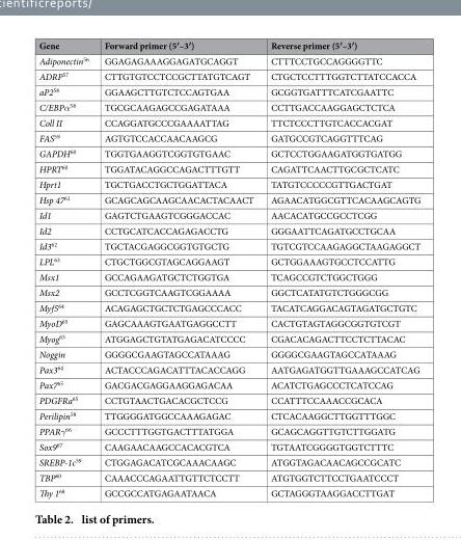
<table><thead><tr><td>Gene</td><td>Forward primer (5′–3′)</td><td>Reverse primer (5′–3′)</td></tr></thead><tbody><tr><td>Adiponectin<sup>56</sup></td><td>GGAGAGAAAGGAGATGCAGGT</td><td>CTTTCCTGCCAGGGGTTC</td></tr><tr><td>ADRP<sup>57</sup></td><td>CTTGTGTCCTCCGCTTATGTCAGT</td><td>CTGCTCCTTTGGTCTTATCCACCA</td></tr><tr><td>aP2<sup>58</sup></td><td>GGAAGCTTGTCTCCAGTGAA</td><td>GCGGTGATTTCATCGAATTC</td></tr><tr><td>C/EBPα<sup>58</sup></td><td>TGCGCAAGAGCCGAGATAAA</td><td>CCTTGACCAAGGAGCTCTCA</td></tr><tr><td>Coll II</td><td>CCAGGATGCCCGAAAATTAG</td><td>TTCTCCCTTGTCACCACGAT</td></tr><tr><td>FAS<sup>59</sup></td><td>AGTGTCCACCAACAAGCG</td><td>GATGCCGTCAGGTTTCAG</td></tr><tr><td>GAPDH<sup>60</sup></td><td>TGGTGAAGGTCGGTGTGAAC</td><td>GCTCCTGGAAGATGGTGATGG</td></tr><tr><td>HPRT<sup>60</sup></td><td>TGGATACAGGCCAGACTTTGTT</td><td>CAGATTCAACTTGCGCTCATC</td></tr><tr><td>Hprt1</td><td>TGCTGACCTGCTGGATTACA</td><td>TATGTCCCCCGTTGACTGAT</td></tr><tr><td>Hsp 47<sup>61</sup></td><td>GCAGCAGCAAGCAACACTACAACT</td><td>AGAACATGGCGTTCACAAGCAGTG</td></tr><tr><td>Id1</td><td>GAGTCTGAAGTCGGGACCAC</td><td>AACACATGCCGCCTCGG</td></tr><tr><td>Id2</td><td>CCTGCATCACCAGAGACCTG</td><td>GGGAATTCAGATGCCTGCAA</td></tr><tr><td>Id3<sup>62</sup></td><td>TGCTACGAGGCGGTGTGCTG</td><td>TGTCGTCCAAGAGGCTAAGAGGCT</td></tr><tr><td>LPL<sup>63</sup></td><td>CTGCTGGCGTAGCAGGAAGT</td><td>GCTGGAAAGTGCCTCCATTG</td></tr><tr><td>Msx1</td><td>GCCAGAAGATGCTCTGGTGA</td><td>TCAGCCGTCTGGCTGGG</td></tr><tr><td>Msx2</td><td>GCCTCGGTCAAGTCGGAAAA</td><td>GGCTCATATGTCTGGGCGG</td></tr><tr><td>Myf5<sup>64</sup></td><td>ACAGAGCTGCTCTGAGCCCACC</td><td>TACATCAGGACAGTAGATGCTGTC</td></tr><tr><td>MyoD<sup>65</sup></td><td>GAGCAAAGTGAATGAGGCCTT</td><td>CACTGTAGTAGGCGGTGTCGT</td></tr><tr><td>Myog<sup>65</sup></td><td>ATGGAGCTGTATGAGACATCCCC</td><td>CGACACAGACTTCCTCTTACAC</td></tr><tr><td>Noggin</td><td>GGGGCGAAGTAGCCATAAAG</td><td>GGGGCGAAGTAGCCATAAAG</td></tr><tr><td>Pax3<sup>64</sup></td><td>ACTACCCAGACATTTACACCAGG</td><td>AATGAGATGGTTGAAAGCCATCAG</td></tr><tr><td>Pax7<sup>65</sup></td><td>GACGACGAGGAAGGAGACAA</td><td>ACATCTGAGCCCTCATCCAG</td></tr><tr><td>PDGFRa<sup>65</sup></td><td>CCTGTAACTGACACGCTCCG</td><td>CCATTTCCAAACCGCACA</td></tr><tr><td>Perilipin<sup>58</sup></td><td>TTGGGGATGGCCAAAGAGAC</td><td>CTCACAAGGCTTGGTTTGGC</td></tr><tr><td>PPARγ<sup>66</sup></td><td>GCCCTTTGGTGACTTTATGGA</td><td>GCAGCAGGTTGTCTTGGATG</td></tr><tr><td>Sox9<sup>67</sup></td><td>CAAGAACAAGCCACACGTCA</td><td>TGTAATCGGGGTGGTCTTTC</td></tr><tr><td>SREBP-1c<sup>59</sup></td><td>CTGGAGACATCGCAAACAAGC</td><td>ATGGTAGACAACAGCCGCATC</td></tr><tr><td>TBP<sup>60</sup></td><td>CAAACCCAGAATTGTTCTCCTT</td><td>ATGTGGTCTTCCTGAATCCCT</td></tr><tr><td>Thy 1<sup>68</sup></td><td>GCCGCCATGAGAATAACA</td><td>GCTAGGGTAAGGACCTTGAT</td></tr></tbody></table>